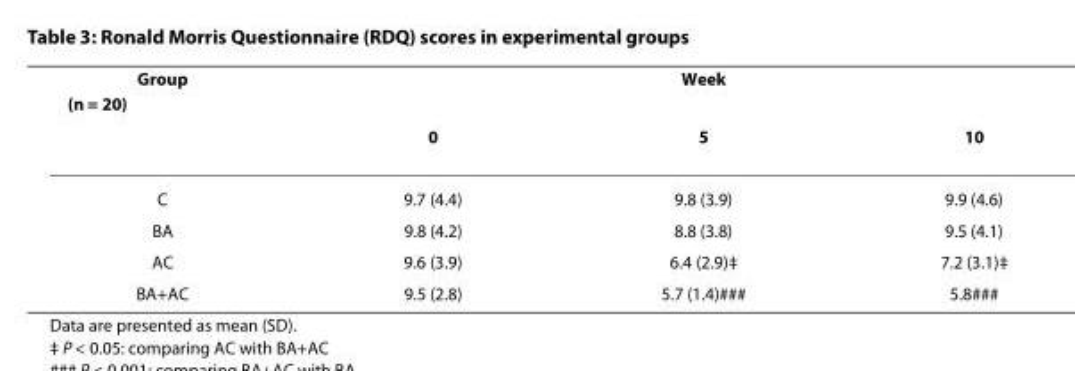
<table><thead><tr><td rowspan="2">Group (n = 20)</td><td colspan="3">Week</td></tr><tr><td>0</td><td>5</td><td>10</td></tr></thead><tbody><tr><td>C</td><td>9.7 (4.4)</td><td>9.8 (3.9)</td><td>9.9 (4.6)</td></tr><tr><td>BA</td><td>9.8 (4.2)</td><td>8.8 (3.8)</td><td>9.5 (4.1)</td></tr><tr><td>AC</td><td>9.6 (3.9)</td><td>6.4 (2.9)‡</td><td>7.2 (3.1)‡</td></tr><tr><td>BA+AC</td><td>9.5 (2.8)</td><td>5.7 (1.4)###</td><td>5.8###</td></tr></tbody></table>